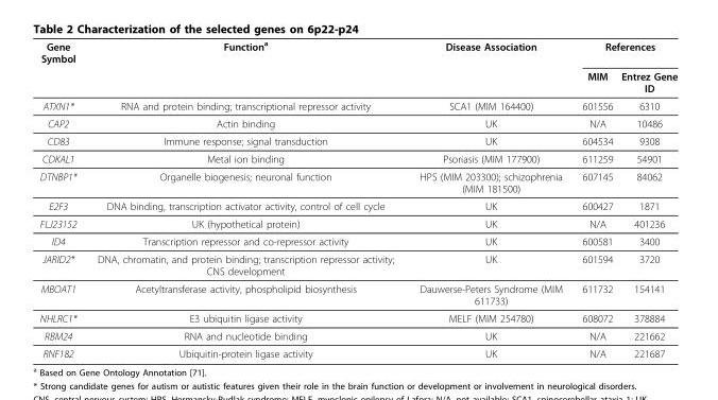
<table><thead><tr><td rowspan="2">Gene Symbol</td><td rowspan="2">Function<sup>a</sup></td><td rowspan="2">Disease Association</td><td colspan="2">References</td></tr><tr><td>MIM</td><td>Entrez Gene ID</td></tr></thead><tbody><tr><td>ATXN1*</td><td>RNA and protein binding; transcriptional repressor activity</td><td>SCA1 (MIM 164400)</td><td>601556</td><td>6310</td></tr><tr><td>CAP2</td><td>Actin binding</td><td>UK</td><td>N/A</td><td>10486</td></tr><tr><td>CD83</td><td>Immune response; signal transduction</td><td>UK</td><td>604534</td><td>9308</td></tr><tr><td>CDKAL1</td><td>Metal ion binding</td><td>Psoriasis (MIM 177900)</td><td>611259</td><td>54901</td></tr><tr><td>DTNBP1*</td><td>Organelle biogenesis; neuronal function</td><td>HPS (MIM 203300); schizophrenia (MIM 181500)</td><td>607145</td><td>84062</td></tr><tr><td>E2F3</td><td>DNA binding, transcription activator activity, control of cell cycle</td><td>UK</td><td>600427</td><td>1871</td></tr><tr><td>FLJ23152</td><td>UK (hypothetical protein)</td><td>UK</td><td>N/A</td><td>401236</td></tr><tr><td>ID4</td><td>Transcription repressor and co-repressor activity</td><td>UK</td><td>600581</td><td>3400</td></tr><tr><td>JARID2*</td><td>DNA, chromatin, and protein binding; transcription repressor activity; CNS development</td><td>UK</td><td>601594</td><td>3720</td></tr><tr><td>MBOAT1</td><td>Acetyltransferase activity, phospholipid biosynthesis</td><td>Dauwerse-Peters Syndrome (MIM 611733)</td><td>611732</td><td>154141</td></tr><tr><td>NHLRC1*</td><td>E3 ubiquitin ligase activity</td><td>MELF (MIM 254780)</td><td>608072</td><td>378884</td></tr><tr><td>RBM24</td><td>RNA and nucleotide binding</td><td>UK</td><td>N/A</td><td>221662</td></tr><tr><td>RNF182</td><td>Ubiquitin-protein ligase activity</td><td>UK</td><td>N/A</td><td>221687</td></tr></tbody></table>